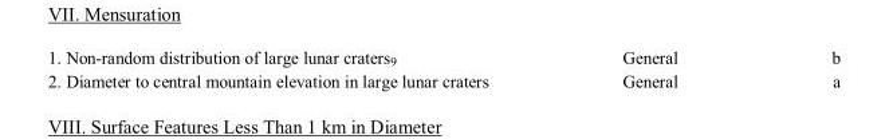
<table><tbody><tr><td>1. Non-random distribution of large lunar craters<sup>9</sup></td><td>General</td><td>b</td></tr><tr><td>2. Diameter to central mountain elevation in large lunar craters</td><td>General</td><td>a</td></tr></tbody></table>